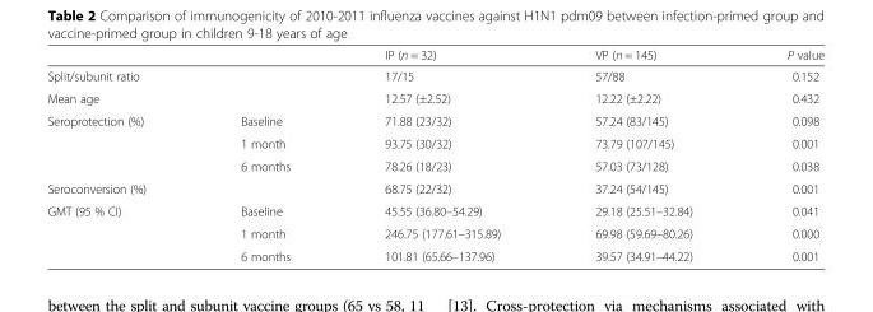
<table><thead><tr><td></td><td></td><td>IP (n = 32)</td><td>VP (n = 145)</td><td>P value</td></tr></thead><tbody><tr><td>Split/subunit ratio</td><td></td><td>17/15</td><td>57/88</td><td>0.152</td></tr><tr><td>Mean age</td><td></td><td>12.57 (±2.52)</td><td>12.22 (±2.22)</td><td>0.432</td></tr><tr><td rowspan="3">Seroprotection (%)</td><td>Baseline</td><td>71.88 (23/32)</td><td>57.24 (83/145)</td><td>0.098</td></tr><tr><td>1 month</td><td>93.75 (30/32)</td><td>73.79 (107/145)</td><td>0.001</td></tr><tr><td>6 months</td><td>78.26 (18/23)</td><td>57.03 (73/128)</td><td>0.038</td></tr><tr><td>Seroconversion (%)</td><td></td><td>68.75 (22/32)</td><td>37.24 (54/145)</td><td>0.001</td></tr><tr><td rowspan="3">GMT (95 % CI)</td><td>Baseline</td><td>45.55 (36.80–54.29)</td><td>29.18 (25.51–32.84)</td><td>0.041</td></tr><tr><td>1 month</td><td>246.75 (177.61–315.89)</td><td>69.98 (59.69–80.26)</td><td>0.000</td></tr><tr><td>6 months</td><td>101.81 (65.66–137.96)</td><td>39.57 (34.91–44.22)</td><td>0.001</td></tr></tbody></table>